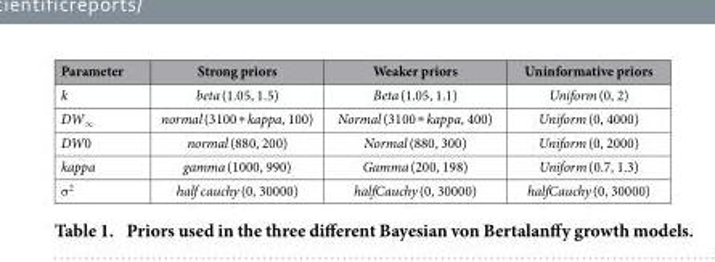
<table><thead><tr><td>Parameter</td><td>Strong priors</td><td>Weaker priors</td><td>Uninformative priors</td></tr></thead><tbody><tr><td>k</td><td>beta (1.05, 1.5)</td><td>Beta (1.05, 1.1)</td><td>Uniform (0, 2)</td></tr><tr><td>DW<sub>∞</sub></td><td>normal (3100 * kappa, 100)</td><td>Normal (3100 * kappa, 400)</td><td>Uniform (0, 4000)</td></tr><tr><td>DW0</td><td>normal (880, 200)</td><td>Normal (880, 300)</td><td>Uniform (0, 2000)</td></tr><tr><td>kappa</td><td>gamma (1000, 990)</td><td>Gamma (200, 198)</td><td>Uniform (0.7, 1.3)</td></tr><tr><td>σ <sup>2</sup></td><td>half cauchy (0, 30000)</td><td>halfCauchy (0, 30000)</td><td>halfCauchy (0, 30000)</td></tr></tbody></table>